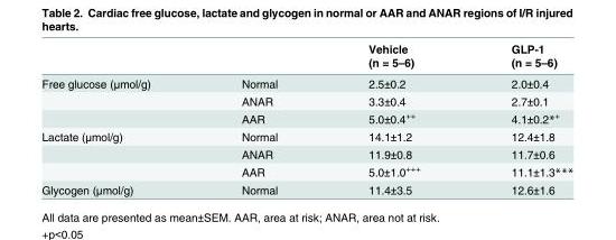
<table><thead><tr><td rowspan="2"></td><td rowspan="2"></td><td rowspan="2">Vehicle (n = 5–6)</td><td rowspan="2">GLP-1 (n = 5–6)</td></tr><tr></tr></thead><tbody><tr><td rowspan="3">Free glucose (μmol/g)</td><td>Normal</td><td>2.5±0.2</td><td>2.0±0.4</td></tr><tr><td>ANAR</td><td>3.3±0.4</td><td>2.7±0.1</td></tr><tr><td>AAR</td><td>5.0±0.4<sup>++</sup></td><td>4.1±0.2*<sup>+</sup></td></tr><tr><td rowspan="3">Lactate (μmol/g)</td><td>Normal</td><td>14.1±1.2</td><td>12.4±1.8</td></tr><tr><td>ANAR</td><td>11.9±0.8</td><td>11.7±0.6</td></tr><tr><td>AAR</td><td>5.0±1.0<sup>+++</sup></td><td>11.1±1.3***</td></tr><tr><td>Glycogen (μmol/g)</td><td>Normal</td><td>11.4±3.5</td><td>12.6±1.6</td></tr></tbody></table>